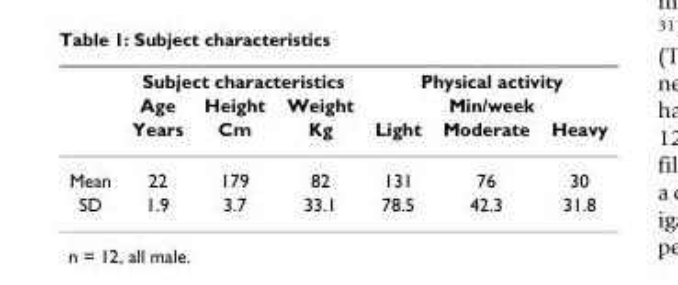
<table><thead><tr><td rowspan="3"></td><td colspan="3">Subject characteristics</td><td rowspan="2" colspan="3">Physical activity Min/week</td></tr><tr><td rowspan="2">Age Years</td><td rowspan="2">Height Cm</td><td rowspan="2">Weight Kg</td></tr><tr><td>Light</td><td>Moderate</td><td>Heavy</td></tr></thead><tbody><tr><td>Mean</td><td>22</td><td>179</td><td>82</td><td>131</td><td>76</td><td>30</td></tr><tr><td>SD</td><td>1.9</td><td>3.7</td><td>33.1</td><td>78.5</td><td>42.3</td><td>31.8</td></tr></tbody></table>